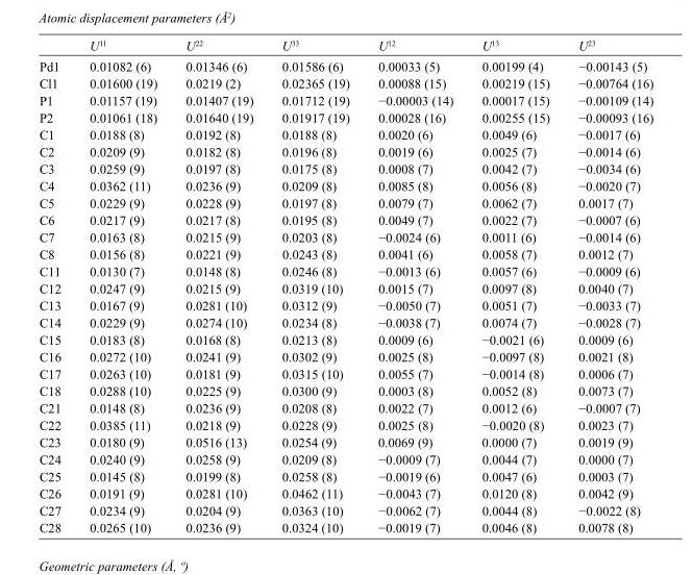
<table><thead><tr><td></td><td>U<sup>11</sup></td><td>U<sup>22</sup></td><td>U<sup>33</sup></td><td>U<sup>12</sup></td><td>U<sup>13</sup></td><td>U<sup>23</sup></td></tr></thead><tbody><tr><td>Pd1</td><td>0.01082 (6)</td><td>0.01346 (6)</td><td>0.01586 (6)</td><td>0.00033 (5)</td><td>0.00199 (4)</td><td>−0.00143 (5)</td></tr><tr><td>Cl1</td><td>0.01600 (19)</td><td>0.0219 (2)</td><td>0.02365 (19)</td><td>0.00088 (15)</td><td>0.00219 (15)</td><td>−0.00764 (16)</td></tr><tr><td>P1</td><td>0.01157 (19)</td><td>0.01407 (19)</td><td>0.01712 (19)</td><td>−0.00003 (14)</td><td>0.00017 (15)</td><td>−0.00109 (14)</td></tr><tr><td>P2</td><td>0.01061 (18)</td><td>0.01640 (19)</td><td>0.01917 (19)</td><td>0.00028 (16)</td><td>0.00255 (15)</td><td>−0.00093 (16)</td></tr><tr><td>C1</td><td>0.0188 (8)</td><td>0.0192 (8)</td><td>0.0188 (8)</td><td>0.0020 (6)</td><td>0.0049 (6)</td><td>−0.0017 (6)</td></tr><tr><td>C2</td><td>0.0209 (9)</td><td>0.0182 (8)</td><td>0.0196 (8)</td><td>0.0019 (6)</td><td>0.0025 (7)</td><td>−0.0014 (6)</td></tr><tr><td>C3</td><td>0.0259 (9)</td><td>0.0197 (8)</td><td>0.0175 (8)</td><td>0.0008 (7)</td><td>0.0042 (7)</td><td>−0.0034 (6)</td></tr><tr><td>C4</td><td>0.0362 (11)</td><td>0.0236 (9)</td><td>0.0209 (8)</td><td>0.0085 (8)</td><td>0.0056 (8)</td><td>−0.0020 (7)</td></tr><tr><td>C5</td><td>0.0229 (9)</td><td>0.0228 (9)</td><td>0.0197 (8)</td><td>0.0079 (7)</td><td>0.0062 (7)</td><td>0.0017 (7)</td></tr><tr><td>C6</td><td>0.0217 (9)</td><td>0.0217 (8)</td><td>0.0195 (8)</td><td>0.0049 (7)</td><td>0.0022 (7)</td><td>−0.0007 (6)</td></tr><tr><td>C7</td><td>0.0163 (8)</td><td>0.0215 (9)</td><td>0.0203 (8)</td><td>−0.0024 (6)</td><td>0.0011 (6)</td><td>−0.0014 (6)</td></tr><tr><td>C8</td><td>0.0156 (8)</td><td>0.0221 (9)</td><td>0.0243 (8)</td><td>0.0041 (6)</td><td>0.0058 (7)</td><td>0.0012 (7)</td></tr><tr><td>C11</td><td>0.0130 (7)</td><td>0.0148 (8)</td><td>0.0246 (8)</td><td>−0.0013 (6)</td><td>0.0057 (6)</td><td>−0.0009 (6)</td></tr><tr><td>C12</td><td>0.0247 (9)</td><td>0.0215 (9)</td><td>0.0319 (10)</td><td>0.0015 (7)</td><td>0.0097 (8)</td><td>0.0040 (7)</td></tr><tr><td>C13</td><td>0.0167 (9)</td><td>0.0281 (10)</td><td>0.0312 (9)</td><td>−0.0050 (7)</td><td>0.0051 (7)</td><td>−0.0033 (7)</td></tr><tr><td>C14</td><td>0.0229 (9)</td><td>0.0274 (10)</td><td>0.0234 (8)</td><td>−0.0038 (7)</td><td>0.0074 (7)</td><td>−0.0028 (7)</td></tr><tr><td>C15</td><td>0.0183 (8)</td><td>0.0168 (8)</td><td>0.0213 (8)</td><td>0.0009 (6)</td><td>−0.0021 (6)</td><td>0.0009 (6)</td></tr><tr><td>C16</td><td>0.0272 (10)</td><td>0.0241 (9)</td><td>0.0302 (9)</td><td>0.0025 (8)</td><td>−0.0097 (8)</td><td>0.0021 (8)</td></tr><tr><td>C17</td><td>0.0263 (10)</td><td>0.0181 (9)</td><td>0.0315 (10)</td><td>0.0055 (7)</td><td>−0.0014 (8)</td><td>0.0006 (7)</td></tr><tr><td>C18</td><td>0.0288 (10)</td><td>0.0225 (9)</td><td>0.0300 (9)</td><td>0.0003 (8)</td><td>0.0052 (8)</td><td>0.0073 (7)</td></tr><tr><td>C21</td><td>0.0148 (8)</td><td>0.0236 (9)</td><td>0.0208 (8)</td><td>0.0022 (7)</td><td>0.0012 (6)</td><td>−0.0007 (7)</td></tr><tr><td>C22</td><td>0.0385 (11)</td><td>0.0218 (9)</td><td>0.0228 (9)</td><td>0.0025 (8)</td><td>−0.0020 (8)</td><td>0.0023 (7)</td></tr><tr><td>C23</td><td>0.0180 (9)</td><td>0.0516 (13)</td><td>0.0254 (9)</td><td>0.0069 (9)</td><td>0.0000 (7)</td><td>0.0019 (9)</td></tr><tr><td>C24</td><td>0.0240 (9)</td><td>0.0258 (9)</td><td>0.0209 (8)</td><td>−0.0009 (7)</td><td>0.0044 (7)</td><td>0.0000 (7)</td></tr><tr><td>C25</td><td>0.0145 (8)</td><td>0.0199 (8)</td><td>0.0258 (8)</td><td>−0.0019 (6)</td><td>0.0047 (6)</td><td>0.0003 (7)</td></tr><tr><td>C26</td><td>0.0191 (9)</td><td>0.0281 (10)</td><td>0.0462 (11)</td><td>−0.0043 (7)</td><td>0.0120 (8)</td><td>0.0042 (9)</td></tr><tr><td>C27</td><td>0.0234 (9)</td><td>0.0204 (9)</td><td>0.0363 (10)</td><td>−0.0062 (7)</td><td>0.0044 (8)</td><td>−0.0022 (8)</td></tr><tr><td>C28</td><td>0.0265 (10)</td><td>0.0236 (9)</td><td>0.0324 (10)</td><td>−0.0019 (7)</td><td>0.0046 (8)</td><td>0.0078 (8)</td></tr></tbody></table>